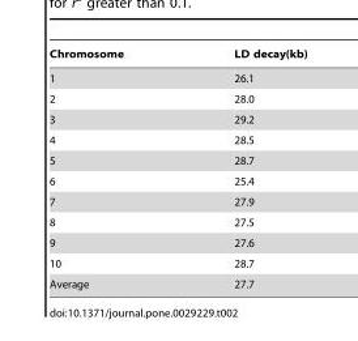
<table><thead><tr><td>Chromosome</td><td>LD decay(kb)</td></tr></thead><tbody><tr><td>1</td><td>26.1</td></tr><tr><td>2</td><td>28.0</td></tr><tr><td>3</td><td>29.2</td></tr><tr><td>4</td><td>28.5</td></tr><tr><td>5</td><td>28.7</td></tr><tr><td>6</td><td>25.4</td></tr><tr><td>7</td><td>27.9</td></tr><tr><td>8</td><td>27.5</td></tr><tr><td>9</td><td>27.6</td></tr><tr><td>10</td><td>28.7</td></tr><tr><td>Average</td><td>27.7</td></tr></tbody></table>